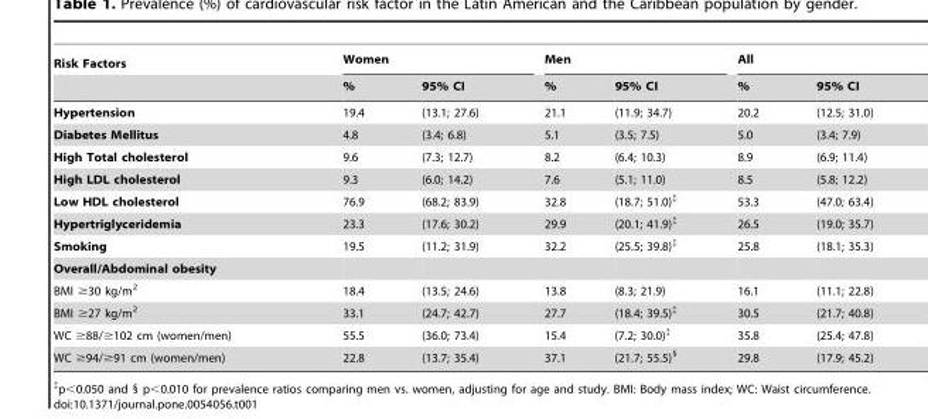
<table><thead><tr><td rowspan="2">Risk Factors</td><td colspan="2">Women</td><td colspan="2">Men</td><td colspan="2">All</td></tr><tr><td>%</td><td>95% CI</td><td>%</td><td>95% CI</td><td>%</td><td>95% CI</td></tr></thead><tbody><tr><td>Hypertension</td><td>19.4</td><td>(13.1; 27.6)</td><td>21.1</td><td>(11.9; 34.7)</td><td>20.2</td><td>(12.5; 31.0)</td></tr><tr><td>Diabetes Mellitus</td><td>4.8</td><td>(3.4; 6.8)</td><td>5.1</td><td>(3.5; 7.5)</td><td>5.0</td><td>(3.4; 7.9)</td></tr><tr><td>High Total cholesterol</td><td>9.6</td><td>(7.3; 12.7)</td><td>8.2</td><td>(6.4; 10.3)</td><td>8.9</td><td>(6.9; 11.4)</td></tr><tr><td>High LDL cholesterol</td><td>9.3</td><td>(6.0; 14.2)</td><td>7.6</td><td>(5.1; 11.0)</td><td>8.5</td><td>(5.8; 12.2)</td></tr><tr><td>Low HDL cholesterol</td><td>76.9</td><td>(68.2; 83.9)</td><td>32.8</td><td>(18.7; 51.0)‡</td><td>53.3</td><td>(47.0; 63.4)</td></tr><tr><td>Hypertriglyceridemia</td><td>23.3</td><td>(17.6; 30.2)</td><td>29.9</td><td>(20.1; 41.9)‡</td><td>26.5</td><td>(19.0; 35.7)</td></tr><tr><td>Smoking</td><td>19.5</td><td>(11.2; 31.9)</td><td>32.2</td><td>(25.5; 39.8)‡</td><td>25.8</td><td>(18.1; 35.3)</td></tr><tr><td colspan="7">Overall/Abdominal obesity</td></tr><tr><td>BMI ≥30 kg/m<sup>2</sup></td><td>18.4</td><td>(13.5; 24.6)</td><td>13.8</td><td>(8.3; 21.9)</td><td>16.1</td><td>(11.1; 22.8)</td></tr><tr><td>BMI ≥27 kg/m<sup>2</sup></td><td>33.1</td><td>(24.7; 42.7)</td><td>27.7</td><td>(18.4; 39.5)‡</td><td>30.5</td><td>(21.7; 40.8)</td></tr><tr><td>WC ≥88/≥102 cm (women/men)</td><td>55.5</td><td>(36.0; 73.4)</td><td>15.4</td><td>(7.2; 30.0)‡</td><td>35.8</td><td>(25.4; 47.8)</td></tr><tr><td>WC ≥94/≥91 cm (women/men)</td><td>22.8</td><td>(13.7; 35.4)</td><td>37.1</td><td>(21.7; 55.5)<sup>§</sup></td><td>29.8</td><td>(17.9; 45.2)</td></tr></tbody></table>